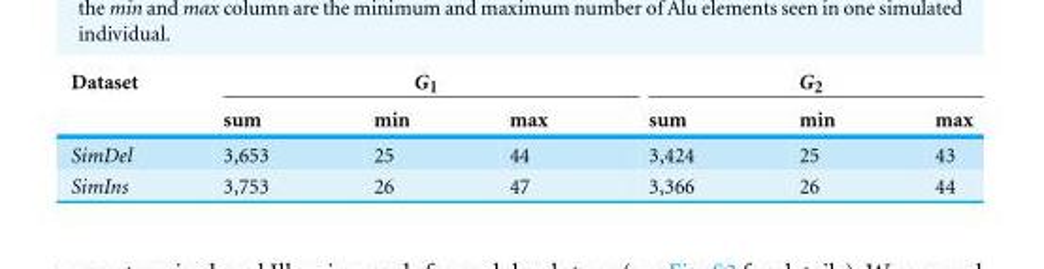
<table><thead><tr><td rowspan="2">Dataset</td><td colspan="3">G<sub>1</sub></td><td colspan="3">G<sub>2</sub></td></tr><tr><td>sum</td><td>min</td><td>max</td><td>sum</td><td>min</td><td>max</td></tr></thead><tbody><tr><td>SimDel</td><td>3,653</td><td>25</td><td>44</td><td>3,424</td><td>25</td><td>43</td></tr><tr><td>SimIns</td><td>3,753</td><td>26</td><td>47</td><td>3,366</td><td>26</td><td>44</td></tr></tbody></table>